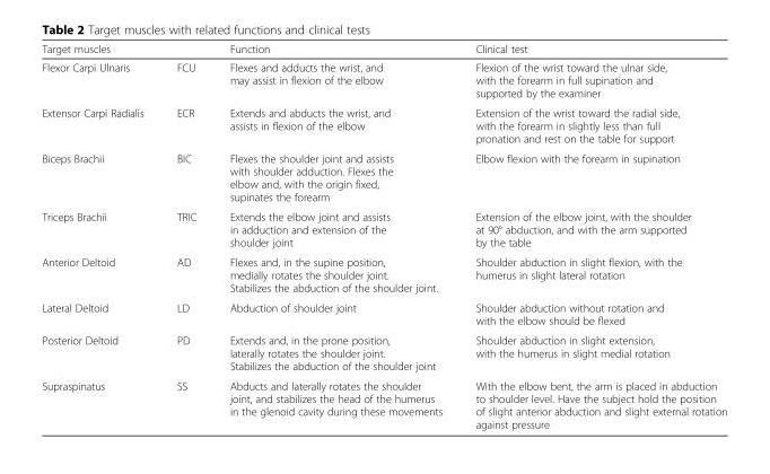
<table><thead><tr><td colspan="2">Target muscles</td><td rowspan="2">Function Flexes and adducts the wrist, and may assist in flexion of the elbow</td><td rowspan="2">Clinical test Flexion of the wrist toward the ulnar side, with the forearm in full supination and supported by the examiner</td></tr><tr><td>Flexor Carpi Ulnaris</td><td>FCU</td></tr></thead><tbody><tr><td>Extensor Carpi Radialis</td><td>ECR</td><td>Extends and abducts the wrist, and assists in flexion of the elbow</td><td>Extension of the wrist toward the radial side, with the forearm in slightly less than full pronation and rest on the table for support</td></tr><tr><td>Biceps Brachii</td><td>BIC</td><td>Flexes the shoulder joint and assists with shoulder adduction. Flexes the elbow and, with the origin fixed, supinates the forearm</td><td>Elbow flexion with the forearm in supination</td></tr><tr><td>Triceps Brachii</td><td>TRIC</td><td>Extends the elbow joint and assists in adduction and extension of the shoulder joint</td><td>Extension of the elbow joint, with the shoulder at 90° abduction, and with the arm supported by the table</td></tr><tr><td>Anterior Deltoid</td><td>AD</td><td>Flexes and, in the supine position, medially rotates the shoulder joint. Stabilizes the abduction of the shoulder joint.</td><td>Shoulder abduction in slight flexion, with the humerus in slight lateral rotation</td></tr><tr><td>Lateral Deltoid</td><td>LD</td><td>Abduction of shoulder joint</td><td>Shoulder abduction without rotation and with the elbow should be flexed</td></tr><tr><td>Posterior Deltoid</td><td>PD</td><td>Extends and, in the prone position, laterally rotates the shoulder joint. Stabilizes the abduction of the shoulder joint</td><td>Shoulder abduction in slight extension, with the humerus in slight medial rotation</td></tr><tr><td>Supraspinatus</td><td>SS</td><td>Abducts and laterally rotates the shoulder joint, and stabilizes the head of the humerus in the glenoid cavity during these movements</td><td>With the elbow bent, the arm is placed in abduction to shoulder level. Have the subject hold the position of slight anterior abduction and slight external rotation against pressure</td></tr></tbody></table>